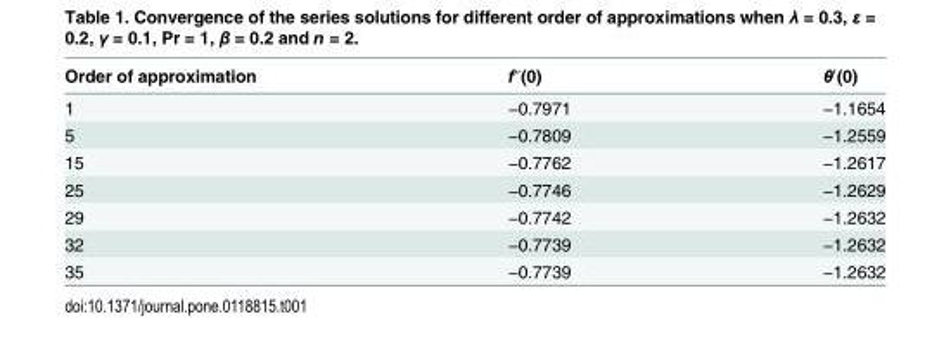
<table><thead><tr><td>Order of approximation</td><td>f″(0)</td><td>θ′(0)</td></tr></thead><tbody><tr><td>1</td><td>−0.7971</td><td>−1.1654</td></tr><tr><td>5</td><td>−0.7809</td><td>−1.2559</td></tr><tr><td>15</td><td>−0.7762</td><td>−1.2617</td></tr><tr><td>25</td><td>−0.7746</td><td>−1.2629</td></tr><tr><td>29</td><td>−0.7742</td><td>−1.2632</td></tr><tr><td>32</td><td>−0.7739</td><td>−1.2632</td></tr><tr><td>35</td><td>−0.7739</td><td>−1.2632</td></tr></tbody></table>